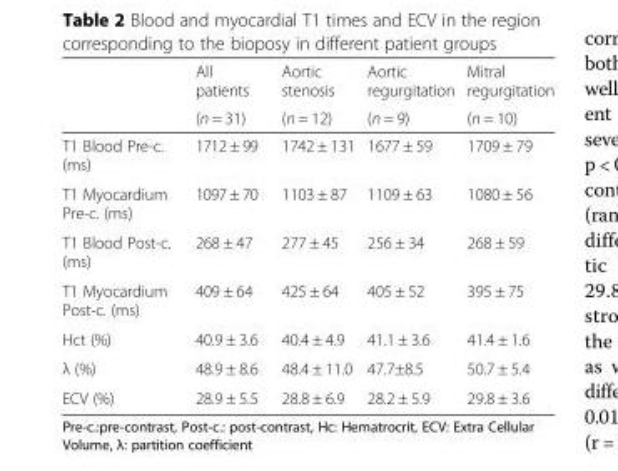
<table><thead><tr><td rowspan="2"></td><td rowspan="2">All patients (n = 31)</td><td rowspan="2">Aortic stenosis (n = 12)</td><td rowspan="2">Aortic regurgitation (n = 9)</td><td rowspan="2">Mitral regurgitation (n = 10)</td></tr><tr></tr></thead><tbody><tr><td>T1 Blood Pre-c. (ms)</td><td>1712 ± 99</td><td>1742 ± 131</td><td>1677 ± 59</td><td>1709 ± 79</td></tr><tr><td>T1 Myocardium Pre-c. (ms)</td><td>1097 ± 70</td><td>1103 ± 87</td><td>1109 ± 63</td><td>1080 ± 56</td></tr><tr><td>T1 Blood Post-c. (ms)</td><td>268 ± 47</td><td>277 ± 45</td><td>256 ± 34</td><td>268 ± 59</td></tr><tr><td>T1 Myocardium Post-c. (ms)</td><td>409 ± 64</td><td>425 ± 64</td><td>405 ± 52</td><td>395 ± 75</td></tr><tr><td>Hct (%)</td><td>40.9 ± 3.6</td><td>40.4 ± 4.9</td><td>41.1 ± 3.6</td><td>41.4 ± 1.6</td></tr><tr><td>λ (%)</td><td>48.9 ± 8.6</td><td>48.4 ± 11.0</td><td>47.7±8.5</td><td>50.7 ± 5.4</td></tr><tr><td>ECV (%)</td><td>28.9 ± 5.5</td><td>28.8 ± 6.9</td><td>28.2 ± 5.9</td><td>29.8 ± 3.6</td></tr></tbody></table>